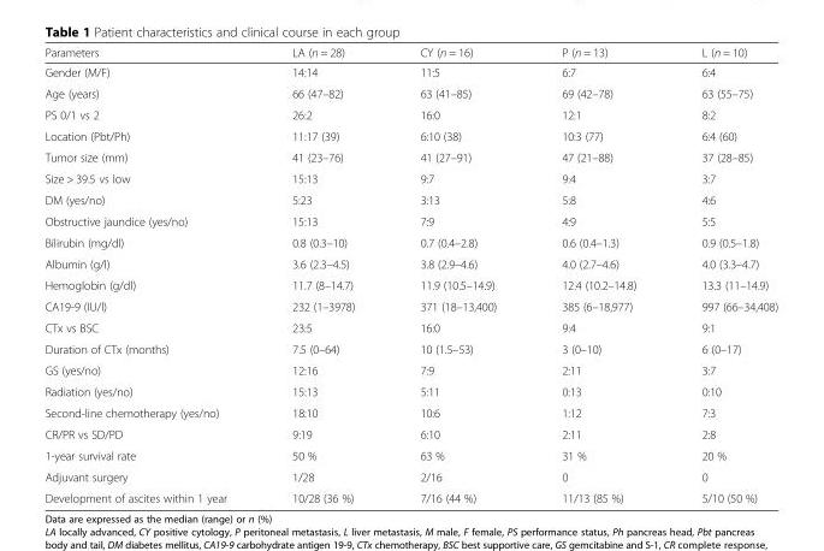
<table><thead><tr><td>Parameters</td><td>LA (n = 28)</td><td>CY (n = 16)</td><td>P (n = 13)</td><td>L (n = 10)</td></tr></thead><tbody><tr><td>Gender (M/F)</td><td>14:14</td><td>11:5</td><td>6:7</td><td>6:4</td></tr><tr><td>Age (years)</td><td>66 (47–82)</td><td>63 (41–85)</td><td>69 (42–78)</td><td>63 (55–75)</td></tr><tr><td>PS 0/1 vs 2</td><td>26:2</td><td>16:0</td><td>12:1</td><td>8:2</td></tr><tr><td>Location (Pbt/Ph)</td><td>11:17 (39)</td><td>6:10 (38)</td><td>10:3 (77)</td><td>6:4 (60)</td></tr><tr><td>Tumor size (mm)</td><td>41 (23–76)</td><td>41 (27–91)</td><td>47 (21–88)</td><td>37 (28–85)</td></tr><tr><td>Size &gt; 39.5 vs low</td><td>15:13</td><td>9:7</td><td>9:4</td><td>3:7</td></tr><tr><td>DM (yes/no)</td><td>5:23</td><td>3:13</td><td>5:8</td><td>4:6</td></tr><tr><td>Obstructive jaundice (yes/no)</td><td>15:13</td><td>7:9</td><td>4:9</td><td>5:5</td></tr><tr><td>Bilirubin (mg/dl)</td><td>0.8 (0.3–10)</td><td>0.7 (0.4–2.8)</td><td>0.6 (0.4–1.3)</td><td>0.9 (0.5–1.8)</td></tr><tr><td>Albumin (g/l)</td><td>3.6 (2.3–4.5)</td><td>3.8 (2.9–4.6)</td><td>4.0 (2.7–4.6)</td><td>4.0 (3.3–4.7)</td></tr><tr><td>Hemoglobin (g/dl)</td><td>11.7 (8–14.7)</td><td>11.9 (10.5–14.9)</td><td>12.4 (10.2–14.8)</td><td>13.3 (11–14.9)</td></tr><tr><td>CA19-9 (IU/l)</td><td>232 (1–3978)</td><td>371 (18–13,400)</td><td>385 (6–18,977)</td><td>997 (66–34,408)</td></tr><tr><td>CTx vs BSC</td><td>23:5</td><td>16:0</td><td>9:4</td><td>9:1</td></tr><tr><td>Duration of CTx (months)</td><td>7.5 (0–64)</td><td>10 (1.5–53)</td><td>3 (0–10)</td><td>6 (0–17)</td></tr><tr><td>GS (yes/no)</td><td>12:16</td><td>7:9</td><td>2:11</td><td>3:7</td></tr><tr><td>Radiation (yes/no)</td><td>15:13</td><td>5:11</td><td>0:13</td><td>0:10</td></tr><tr><td>Second-line chemotherapy (yes/no)</td><td>18:10</td><td>10:6</td><td>1:12</td><td>7:3</td></tr><tr><td>CR/PR vs SD/PD</td><td>9:19</td><td>6:10</td><td>2:11</td><td>2:8</td></tr><tr><td>1-year survival rate</td><td>50 %</td><td>63 %</td><td>31 %</td><td>20 %</td></tr><tr><td>Adjuvant surgery</td><td>1/28</td><td>2/16</td><td>0</td><td>0</td></tr><tr><td>Development of ascites within 1 year</td><td>10/28 (36 %)</td><td>7/16 (44 %)</td><td>11/13 (85 %)</td><td>5/10 (50 %)</td></tr></tbody></table>